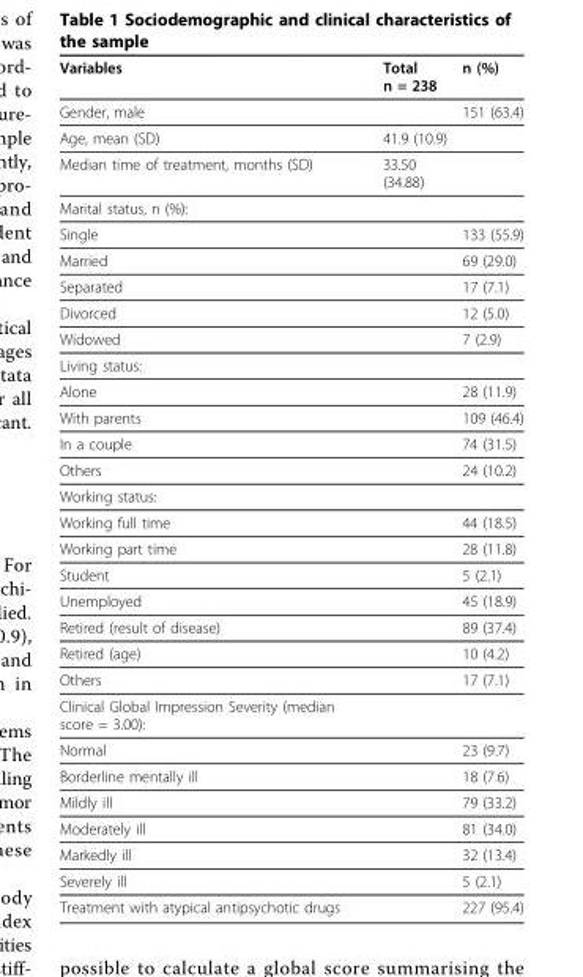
<table><thead><tr><td>Variables</td><td>Total n = 238</td><td>n (%)</td></tr></thead><tbody><tr><td>Gender, male</td><td></td><td>151 (63.4)</td></tr><tr><td>Age, mean (SD)</td><td>41.9 (10.9)</td><td></td></tr><tr><td>Median time of treatment, months (SD)</td><td>33.50 (34.88)</td><td></td></tr><tr><td colspan="3">Marital status, n (%):</td></tr><tr><td>Single</td><td></td><td>133 (55.9)</td></tr><tr><td>Married</td><td></td><td>69 (29.0)</td></tr><tr><td>Separated</td><td></td><td>17 (7.1)</td></tr><tr><td>Divorced</td><td></td><td>12 (5.0)</td></tr><tr><td>Widowed</td><td></td><td>7 (2.9)</td></tr><tr><td colspan="3">Living status:</td></tr><tr><td>Alone</td><td></td><td>28 (11.9)</td></tr><tr><td>With parents</td><td></td><td>109 (46.4)</td></tr><tr><td>In a couple</td><td></td><td>74 (31.5)</td></tr><tr><td>Others</td><td></td><td>24 (10.2)</td></tr><tr><td colspan="3">Working status:</td></tr><tr><td>Working full time</td><td></td><td>44 (18.5)</td></tr><tr><td>Working part time</td><td></td><td>28 (11.8)</td></tr><tr><td>Student</td><td></td><td>5 (2.1)</td></tr><tr><td>Unemployed</td><td></td><td>45 (18.9)</td></tr><tr><td>Retired (result of disease)</td><td></td><td>89 (37.4)</td></tr><tr><td>Retired (age)</td><td></td><td>10 (4.2)</td></tr><tr><td>Others</td><td></td><td>17 (7.1)</td></tr><tr><td colspan="3">Clinical Global Impression Severity (median score = 3.00):</td></tr><tr><td>Normal</td><td></td><td>23 (9.7)</td></tr><tr><td>Borderline mentally ill</td><td></td><td>18 (7.6)</td></tr><tr><td>Mildly ill</td><td></td><td>79 (33.2)</td></tr><tr><td>Moderately ill</td><td></td><td>81 (34.0)</td></tr><tr><td>Markedly ill</td><td></td><td>32 (13.4)</td></tr><tr><td>Severely ill</td><td></td><td>5 (2.1)</td></tr><tr><td>Treatment with atypical antipsychotic drugs</td><td></td><td>227 (95.4)</td></tr></tbody></table>